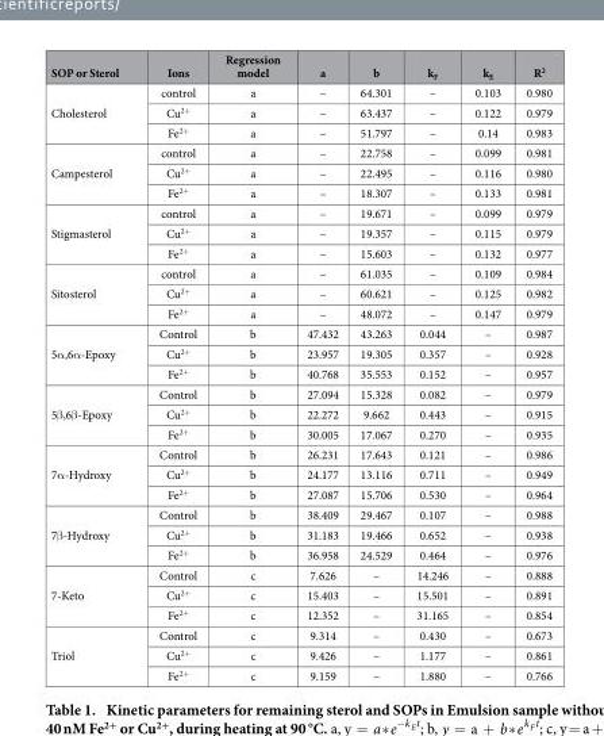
<table><thead><tr><td>SOP or Sterol</td><td>Ions</td><td>Regression model</td><td>a</td><td>b</td><td>k<sub>F</sub></td><td>k<sub>E</sub></td><td>R<sup>2</sup></td></tr></thead><tbody><tr><td rowspan="3">Cholesterol</td><td>control</td><td>a</td><td>–</td><td>64.301</td><td>–</td><td>0.103</td><td>0.980</td></tr><tr><td>Cu<sup>2+</sup></td><td>a</td><td>–</td><td>63.437</td><td>–</td><td>0.122</td><td>0.979</td></tr><tr><td>Fe<sup>2+</sup></td><td>a</td><td>–</td><td>51.797</td><td>–</td><td>0.14</td><td>0.983</td></tr><tr><td rowspan="3">Campesterol</td><td>control</td><td>a</td><td>–</td><td>22.758</td><td>–</td><td>0.099</td><td>0.981</td></tr><tr><td>Cu<sup>2+</sup></td><td>a</td><td>–</td><td>22.495</td><td>–</td><td>0.116</td><td>0.980</td></tr><tr><td>Fe<sup>2+</sup></td><td>a</td><td>–</td><td>18.307</td><td>–</td><td>0.133</td><td>0.981</td></tr><tr><td rowspan="3">Stigmasterol</td><td>control</td><td>a</td><td>–</td><td>19.671</td><td>–</td><td>0.099</td><td>0.979</td></tr><tr><td>Cu<sup>2+</sup></td><td>a</td><td>–</td><td>19.357</td><td>–</td><td>0.115</td><td>0.979</td></tr><tr><td>Fe<sup>2+</sup></td><td>a</td><td>–</td><td>15.603</td><td>–</td><td>0.132</td><td>0.977</td></tr><tr><td rowspan="3">Sitosterol</td><td>control</td><td>a</td><td>–</td><td>61.035</td><td>–</td><td>0.109</td><td>0.984</td></tr><tr><td>Cu<sup>2+</sup></td><td>a</td><td>–</td><td>60.621</td><td>–</td><td>0.125</td><td>0.982</td></tr><tr><td>Fe<sup>2+</sup></td><td>a</td><td>–</td><td>48.072</td><td>–</td><td>0.147</td><td>0.979</td></tr><tr><td rowspan="3">5α ,6α -Epoxy</td><td>Control</td><td>b</td><td>47.432</td><td>43.263</td><td>0.044</td><td>–</td><td>0.987</td></tr><tr><td>Cu<sup>2+</sup></td><td>b</td><td>23.957</td><td>19.305</td><td>0.357</td><td>–</td><td>0.928</td></tr><tr><td>Fe<sup>2+</sup></td><td>b</td><td>40.768</td><td>35.553</td><td>0.152</td><td>–</td><td>0.957</td></tr><tr><td rowspan="3">5β ,6β -Epoxy</td><td>Control</td><td>b</td><td>27.094</td><td>15.328</td><td>0.082</td><td>–</td><td>0.979</td></tr><tr><td>Cu<sup>2+</sup></td><td>b</td><td>22.272</td><td>9.662</td><td>0.443</td><td>–</td><td>0.915</td></tr><tr><td>Fe<sup>2+</sup></td><td>b</td><td>30.005</td><td>17.067</td><td>0.270</td><td>–</td><td>0.935</td></tr><tr><td rowspan="3">7α -Hydroxy</td><td>Control</td><td>b</td><td>26.231</td><td>17.643</td><td>0.121</td><td>–</td><td>0.986</td></tr><tr><td>Cu<sup>2+</sup></td><td>b</td><td>24.177</td><td>13.116</td><td>0.711</td><td>–</td><td>0.949</td></tr><tr><td>Fe<sup>2+</sup></td><td>b</td><td>27.087</td><td>15.706</td><td>0.530</td><td>–</td><td>0.964</td></tr><tr><td rowspan="3">7β -Hydroxy</td><td>Control</td><td>b</td><td>38.409</td><td>29.467</td><td>0.107</td><td>–</td><td>0.988</td></tr><tr><td>Cu<sup>2+</sup></td><td>b</td><td>31.183</td><td>19.466</td><td>0.652</td><td>–</td><td>0.938</td></tr><tr><td>Fe<sup>2+</sup></td><td>b</td><td>36.958</td><td>24.529</td><td>0.464</td><td>–</td><td>0.976</td></tr><tr><td rowspan="3">7-Keto</td><td>Control</td><td>c</td><td>7.626</td><td>–</td><td>14.246</td><td>–</td><td>0.888</td></tr><tr><td>Cu<sup>2+</sup></td><td>c</td><td>15.403</td><td>–</td><td>15.501</td><td>–</td><td>0.891</td></tr><tr><td>Fe<sup>2+</sup></td><td>c</td><td>12.352</td><td>–</td><td>31.165</td><td>–</td><td>0.854</td></tr><tr><td rowspan="3">Triol</td><td>Control</td><td>c</td><td>9.314</td><td>–</td><td>0.430</td><td>–</td><td>0.673</td></tr><tr><td>Cu<sup>2+</sup></td><td>c</td><td>9.426</td><td>–</td><td>1.177</td><td>–</td><td>0.861</td></tr><tr><td>Fe<sup>2+</sup></td><td>c</td><td>9.159</td><td>–</td><td>1.880</td><td>–</td><td>0.766</td></tr></tbody></table>